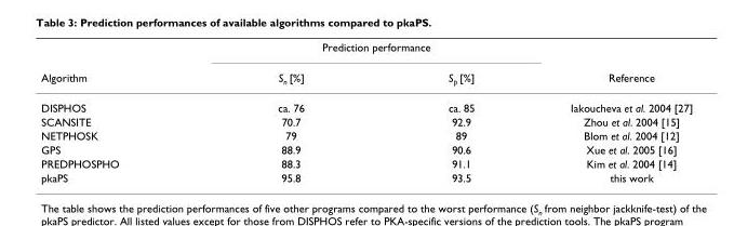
<table><thead><tr><td rowspan="2">Algorithm</td><td colspan="2">Prediction performance</td><td rowspan="2">Reference</td></tr><tr><td>S<sub>n</sub> [%]</td><td>S<sub>p</sub> [%]</td></tr></thead><tbody><tr><td>DISPHOS</td><td>ca. 76</td><td>ca. 85</td><td>Iakoucheva et al. 2004 [27]</td></tr><tr><td>SCANSITE</td><td>70.7</td><td>92.9</td><td>Zhou et al. 2004 [15]</td></tr><tr><td>NETPHOSK</td><td>79</td><td>89</td><td>Blom et al. 2004 [12]</td></tr><tr><td>GPS</td><td>88.9</td><td>90.6</td><td>Xue et al. 2005 [16]</td></tr><tr><td>PREDPHOSPHO</td><td>88.3</td><td>91.1</td><td>Kim et al. 2004 [14]</td></tr><tr><td>pkaPS</td><td>95.8</td><td>93.5</td><td>this work</td></tr></tbody></table>